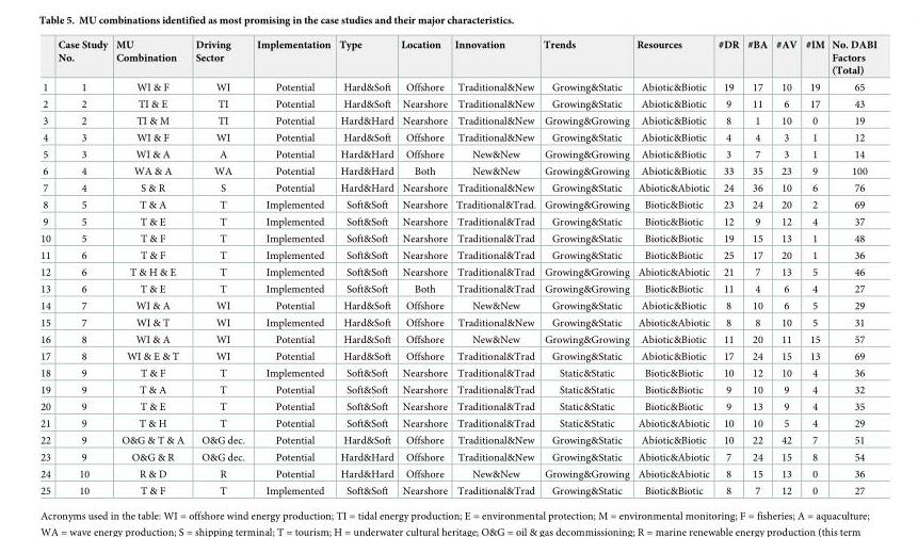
<table><thead><tr><td></td><td>Case Study No.</td><td>MU Combination</td><td>Driving Sector</td><td>Implementation</td><td>Type</td><td>Location</td><td>Innovation</td><td>Trends</td><td>Resources</td><td>#DR</td><td>#BA</td><td>#AV</td><td>#IM</td><td>No. DABI Factors (Total)</td></tr></thead><tbody><tr><td>1</td><td>1</td><td>WI &amp; F</td><td>WI</td><td>Potential</td><td>Hard&amp;Soft</td><td>Offshore</td><td>Traditional&amp;New</td><td>Growing&amp;Static</td><td>Abiotic&amp;Biotic</td><td>19</td><td>17</td><td>10</td><td>19</td><td>65</td></tr><tr><td>2</td><td>2</td><td>TI &amp; E</td><td>TI</td><td>Potential</td><td>Hard&amp;Soft</td><td>Nearshore</td><td>Traditional&amp;New</td><td>Growing&amp;Static</td><td>Abiotic&amp;Biotic</td><td>9</td><td>11</td><td>6</td><td>17</td><td>43</td></tr><tr><td>3</td><td>2</td><td>TI &amp; M</td><td>TI</td><td>Potential</td><td>Hard&amp;Hard</td><td>Nearshore</td><td>Traditional&amp;New</td><td>Growing&amp;Growing</td><td>Abiotic&amp;Biotic</td><td>8</td><td>1</td><td>10</td><td>0</td><td>19</td></tr><tr><td>4</td><td>3</td><td>WI &amp; F</td><td>WI</td><td>Potential</td><td>Hard&amp;Soft</td><td>Offshore</td><td>Traditional&amp;New</td><td>Growing&amp;Static</td><td>Abiotic&amp;Biotic</td><td>4</td><td>4</td><td>3</td><td>1</td><td>12</td></tr><tr><td>5</td><td>3</td><td>WI &amp; A</td><td>A</td><td>Potential</td><td>Hard&amp;Hard</td><td>Offshore</td><td>New&amp;New</td><td>Growing&amp;Growing</td><td>Abiotic&amp;Biotic</td><td>3</td><td>7</td><td>3</td><td>1</td><td>14</td></tr><tr><td>6</td><td>4</td><td>WA &amp; A</td><td>WA</td><td>Potential</td><td>Hard&amp;Hard</td><td>Both</td><td>New&amp;New</td><td>Growing&amp;Growing</td><td>Abiotic&amp;Biotic</td><td>33</td><td>35</td><td>23</td><td>9</td><td>100</td></tr><tr><td>7</td><td>4</td><td>S &amp; R</td><td>S</td><td>Potential</td><td>Hard&amp;Hard</td><td>Nearshore</td><td>Traditional&amp;New</td><td>Growing&amp;Static</td><td>Abiotic&amp;Abiotic</td><td>24</td><td>36</td><td>10</td><td>6</td><td>76</td></tr><tr><td>8</td><td>5</td><td>T &amp; A</td><td>T</td><td>Implemented</td><td>Soft&amp;Soft</td><td>Nearshore</td><td>Traditional&amp;Trad.</td><td>Growing&amp;Growing</td><td>Biotic&amp;Biotic</td><td>23</td><td>24</td><td>20</td><td>2</td><td>69</td></tr><tr><td>9</td><td>5</td><td>T &amp; E</td><td>T</td><td>Implemented</td><td>Soft&amp;Soft</td><td>Nearshore</td><td>Traditional&amp;Trad</td><td>Growing&amp;Static</td><td>Biotic&amp;Biotic</td><td>12</td><td>9</td><td>12</td><td>4</td><td>37</td></tr><tr><td>10</td><td>5</td><td>T &amp; F</td><td>T</td><td>Implemented</td><td>Soft&amp;Soft</td><td>Nearshore</td><td>Traditional&amp;Trad</td><td>Growing&amp;Static</td><td>Biotic&amp;Biotic</td><td>19</td><td>15</td><td>13</td><td>1</td><td>48</td></tr><tr><td>11</td><td>6</td><td>T &amp; F</td><td>T</td><td>Implemented</td><td>Soft&amp;Soft</td><td>Nearshore</td><td>Traditional&amp;Trad</td><td>Growing&amp;Static</td><td>Biotic&amp;Biotic</td><td>25</td><td>17</td><td>20</td><td>1</td><td>36</td></tr><tr><td>12</td><td>6</td><td>T &amp; H &amp; E</td><td>T</td><td>Implemented</td><td>Soft&amp;Soft</td><td>Nearshore</td><td>Traditional&amp;Trad</td><td>Growing&amp;Growing</td><td>Abiotic&amp;Abiotic</td><td>21</td><td>7</td><td>13</td><td>5</td><td>46</td></tr><tr><td>13</td><td>6</td><td>T &amp; E</td><td>T</td><td>Implemented</td><td>Soft&amp;Soft</td><td>Both</td><td>Traditional&amp;Trad</td><td>Growing&amp;Growing</td><td>Biotic&amp;Biotic</td><td>11</td><td>4</td><td>6</td><td>4</td><td>27</td></tr><tr><td>14</td><td>7</td><td>WI &amp; A</td><td>WI</td><td>Potential</td><td>Hard&amp;Soft</td><td>Offshore</td><td>New&amp;New</td><td>Growing&amp;Static</td><td>Abiotic&amp;Biotic</td><td>8</td><td>10</td><td>6</td><td>5</td><td>29</td></tr><tr><td>15</td><td>7</td><td>WI &amp; T</td><td>WI</td><td>Implemented</td><td>Hard&amp;Soft</td><td>Offshore</td><td>Traditional&amp;New</td><td>Growing&amp;Static</td><td>Abiotic&amp;Abiotic</td><td>8</td><td>8</td><td>10</td><td>5</td><td>31</td></tr><tr><td>16</td><td>8</td><td>WI &amp; A</td><td>WI</td><td>Potential</td><td>Hard&amp;Soft</td><td>Offshore</td><td>New&amp;New</td><td>Growing&amp;Growing</td><td>Abiotic&amp;Biotic</td><td>11</td><td>20</td><td>11</td><td>15</td><td>57</td></tr><tr><td>17</td><td>8</td><td>WI &amp; E &amp; T</td><td>WI</td><td>Potential</td><td>Hard&amp;Soft</td><td>Offshore</td><td>Traditional&amp;Trad</td><td>Growing&amp;Static</td><td>Abiotic&amp;Biotic</td><td>17</td><td>24</td><td>15</td><td>13</td><td>69</td></tr><tr><td>18</td><td>9</td><td>T &amp; F</td><td>T</td><td>Implemented</td><td>Soft&amp;Soft</td><td>Nearshore</td><td>Traditional&amp;Trad</td><td>Static&amp;Static</td><td>Biotic&amp;Biotic</td><td>10</td><td>12</td><td>10</td><td>4</td><td>36</td></tr><tr><td>19</td><td>9</td><td>T &amp; A</td><td>T</td><td>Potential</td><td>Soft&amp;Soft</td><td>Nearshore</td><td>Traditional&amp;Trad</td><td>Static&amp;Static</td><td>Biotic&amp;Biotic</td><td>9</td><td>10</td><td>9</td><td>4</td><td>32</td></tr><tr><td>20</td><td>9</td><td>T &amp; E</td><td>T</td><td>Potential</td><td>Soft&amp;Soft</td><td>Nearshore</td><td>Traditional&amp;Trad</td><td>Static&amp;Static</td><td>Biotic&amp;Biotic</td><td>9</td><td>13</td><td>9</td><td>4</td><td>35</td></tr><tr><td>21</td><td>9</td><td>T &amp; H</td><td>T</td><td>Potential</td><td>Soft&amp;Soft</td><td>Nearshore</td><td>Traditional&amp;Trad</td><td>Static&amp;Static</td><td>Abiotic&amp;Abiotic</td><td>10</td><td>10</td><td>5</td><td>4</td><td>29</td></tr><tr><td>22</td><td>9</td><td>O&amp;G &amp; T &amp; A</td><td>O&amp;G dec.</td><td>Potential</td><td>Hard&amp;Soft</td><td>Offshore</td><td>Traditional&amp;New</td><td>Growing&amp;Static</td><td>Abiotic&amp;Biotic</td><td>10</td><td>22</td><td>42</td><td>7</td><td>51</td></tr><tr><td>23</td><td>9</td><td>O&amp;G &amp; R</td><td>O&amp;G dec.</td><td>Potential</td><td>Hard&amp;Hard</td><td>Offshore</td><td>Traditional&amp;New</td><td>Growing&amp;Static</td><td>Abiotic&amp;Abiotic</td><td>7</td><td>24</td><td>15</td><td>8</td><td>54</td></tr><tr><td>24</td><td>10</td><td>R &amp; D</td><td>R</td><td>Potential</td><td>Hard&amp;Hard</td><td>Offshore</td><td>New&amp;New</td><td>Growing&amp;Growing</td><td>Abiotic&amp;Abiotic</td><td>8</td><td>15</td><td>13</td><td>0</td><td>36</td></tr><tr><td>25</td><td>10</td><td>T &amp; F</td><td>T</td><td>Implemented</td><td>Soft&amp;Soft</td><td>Nearshore</td><td>Traditional&amp;Trad</td><td>Growing&amp;Static</td><td>Biotic&amp;Biotic</td><td>8</td><td>7</td><td>12</td><td>0</td><td>27</td></tr></tbody></table>